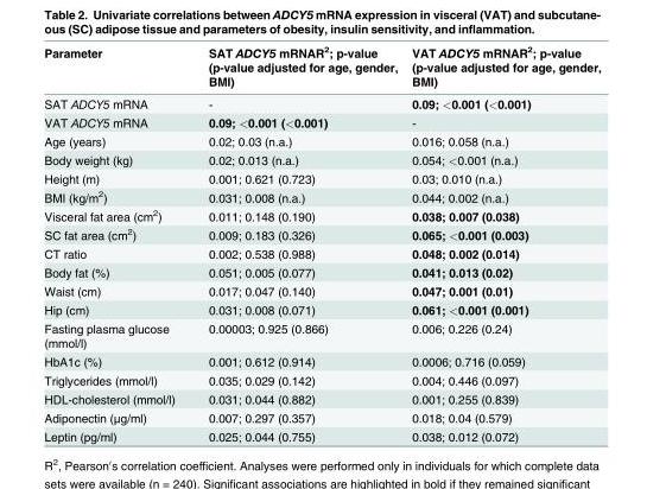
<table><thead><tr><td>Parameter</td><td>SAT ADCY5 mRNAR<sup>2</sup>; p-value (p-value adjusted for age, gender, BMI)</td><td>VAT ADCY5 mRNAR<sup>2</sup>; p-value (p-value adjusted for age, gender, BMI)</td></tr></thead><tbody><tr><td>SAT ADCY5 mRNA</td><td>-</td><td>0.09; &lt;0.001 (&lt;0.001)</td></tr><tr><td>VAT ADCY5 mRNA</td><td>0.09; &lt;0.001 (&lt;0.001)</td><td>-</td></tr><tr><td>Age (years)</td><td>0.02; 0.03 (n.a.)</td><td>0.016; 0.058 (n.a.)</td></tr><tr><td>Body weight (kg)</td><td>0.02; 0.013 (n.a.)</td><td>0.054; &lt;0.001 (n.a.)</td></tr><tr><td>Height (m)</td><td>0.001; 0.621 (0.723)</td><td>0.03; 0.010 (n.a.)</td></tr><tr><td>BMI (kg/m<sup>2</sup>)</td><td>0.031; 0.008 (n.a.)</td><td>0.044; 0.002 (n.a.)</td></tr><tr><td>Visceral fat area (cm<sup>2</sup>)</td><td>0.011; 0.148 (0.190)</td><td>0.038; 0.007 (0.038)</td></tr><tr><td>SC fat area (cm<sup>2</sup>)</td><td>0.009; 0.183 (0.326)</td><td>0.065; &lt;0.001 (0.003)</td></tr><tr><td>CT ratio</td><td>0.002; 0.538 (0.988)</td><td>0.048; 0.002 (0.014)</td></tr><tr><td>Body fat (%)</td><td>0.051; 0.005 (0.077)</td><td>0.041; 0.013 (0.02)</td></tr><tr><td>Waist (cm)</td><td>0.017; 0.047 (0.140)</td><td>0.047; 0.001 (0.01)</td></tr><tr><td>Hip (cm)</td><td>0.031; 0.008 (0.071)</td><td>0.061; &lt;0.001 (0.001)</td></tr><tr><td>Fasting plasma glucose (mmol/l)</td><td>0.00003; 0.925 (0.866)</td><td>0.006; 0.226 (0.24)</td></tr><tr><td>HbA1c (%)</td><td>0.001; 0.612 (0.914)</td><td>0.0006; 0.716 (0.059)</td></tr><tr><td>Triglycerides (mmol/l)</td><td>0.035; 0.029 (0.142)</td><td>0.004; 0.446 (0.097)</td></tr><tr><td>HDL-cholesterol (mmol/l)</td><td>0.031; 0.044 (0.882)</td><td>0.001; 0.255 (0.839)</td></tr><tr><td>Adiponectin (μg/ml)</td><td>0.007; 0.297 (0.357)</td><td>0.018; 0.04 (0.579)</td></tr><tr><td>Leptin (pg/ml)</td><td>0.025; 0.044 (0.755)</td><td>0.038; 0.012 (0.072)</td></tr></tbody></table>